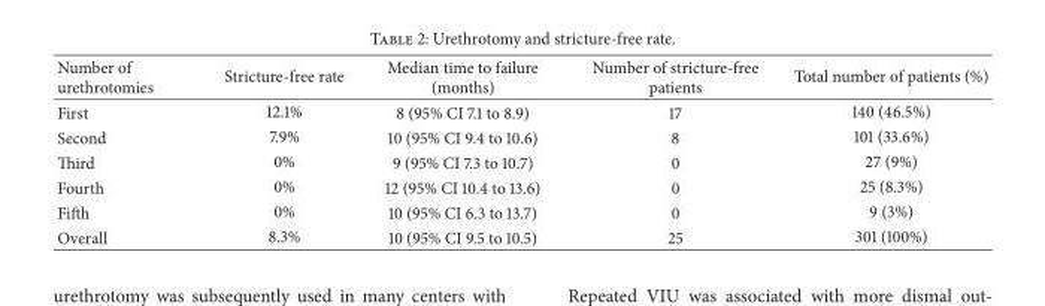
<table><thead><tr><td>Number of urethrotomies</td><td>Stricture-free rate</td><td>Median time to failure (months)</td><td>Number of stricture-free patients</td><td>Total number of patients (%)</td></tr></thead><tbody><tr><td>First</td><td>12.1%</td><td>8 (95% CI 7.1 to 8.9)</td><td>17</td><td>140 (46.5%)</td></tr><tr><td>Second</td><td>7.9%</td><td>10 (95% CI 9.4 to 10.6)</td><td>8</td><td>101 (33.6%)</td></tr><tr><td>Third</td><td>0%</td><td>9 (95% CI 7.3 to 10.7)</td><td>0</td><td>27 (9%)</td></tr><tr><td>Fourth</td><td>0%</td><td>12 (95% CI 10.4 to 13.6)</td><td>0</td><td>25 (8.3%)</td></tr><tr><td>Fifth</td><td>0%</td><td>10 (95% CI 6.3 to 13.7)</td><td>0</td><td>9 (3%)</td></tr><tr><td>Overall</td><td>8.3%</td><td>10 (95% CI 9.5 to 10.5)</td><td>25</td><td>301 (100%)</td></tr></tbody></table>